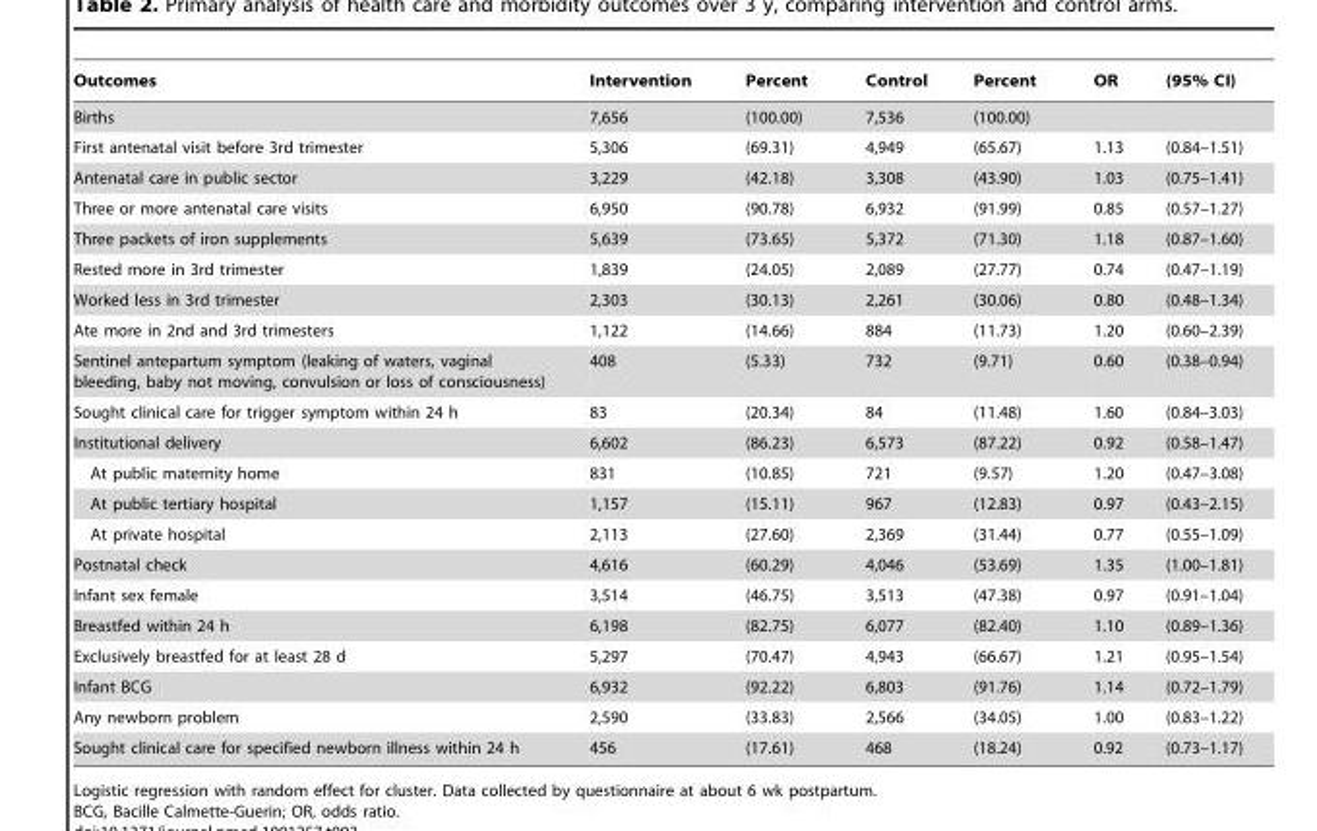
<table><thead><tr><td>Outcomes</td><td>Intervention</td><td>Percent</td><td>Control</td><td>Percent</td><td>OR</td><td>(95% CI)</td></tr></thead><tbody><tr><td>Births</td><td>7,656</td><td>(100.00)</td><td>7,536</td><td>(100.00)</td><td></td><td></td></tr><tr><td>First antenatal visit before 3rd trimester</td><td>5,306</td><td>(69.31)</td><td>4,949</td><td>(65.67)</td><td>1.13</td><td>(0.84–1.51)</td></tr><tr><td>Antenatal care in public sector</td><td>3,229</td><td>(42.18)</td><td>3,308</td><td>(43.90)</td><td>1.03</td><td>(0.75–1.41)</td></tr><tr><td>Three or more antenatal care visits</td><td>6,950</td><td>(90.78)</td><td>6,932</td><td>(91.99)</td><td>0.85</td><td>(0.57–1.27)</td></tr><tr><td>Three packets of iron supplements</td><td>5,639</td><td>(73.65)</td><td>5,372</td><td>(71.30)</td><td>1.18</td><td>(0.87–1.60)</td></tr><tr><td>Rested more in 3rd trimester</td><td>1,839</td><td>(24.05)</td><td>2,089</td><td>(27.77)</td><td>0.74</td><td>(0.47–1.19)</td></tr><tr><td>Worked less in 3rd trimester</td><td>2,303</td><td>(30.13)</td><td>2,261</td><td>(30.06)</td><td>0.80</td><td>(0.48–1.34)</td></tr><tr><td>Ate more in 2nd and 3rd trimesters</td><td>1,122</td><td>(14.66)</td><td>884</td><td>(11.73)</td><td>1.20</td><td>(0.60–2.39)</td></tr><tr><td>Sentinel antepartum symptom (leaking of waters, vaginal bleeding, baby not moving, convulsion or loss of consciousness)</td><td>408</td><td>(5.33)</td><td>732</td><td>(9.71)</td><td>0.60</td><td>(0.38–0.94)</td></tr><tr><td>Sought clinical care for trigger symptom within 24 h</td><td>83</td><td>(20.34)</td><td>84</td><td>(11.48)</td><td>1.60</td><td>(0.84–3.03)</td></tr><tr><td>Institutional delivery</td><td>6,602</td><td>(86.23)</td><td>6,573</td><td>(87.22)</td><td>0.92</td><td>(0.58–1.47)</td></tr><tr><td>At public maternity home</td><td>831</td><td>(10.85)</td><td>721</td><td>(9.57)</td><td>1.20</td><td>(0.47–3.08)</td></tr><tr><td>At public tertiary hospital</td><td>1,157</td><td>(15.11)</td><td>967</td><td>(12.83)</td><td>0.97</td><td>(0.43–2.15)</td></tr><tr><td>At private hospital</td><td>2,113</td><td>(27.60)</td><td>2,369</td><td>(31.44)</td><td>0.77</td><td>(0.55–1.09)</td></tr><tr><td>Postnatal check</td><td>4,616</td><td>(60.29)</td><td>4,046</td><td>(53.69)</td><td>1.35</td><td>(1.00–1.81)</td></tr><tr><td>Infant sex female</td><td>3,514</td><td>(46.75)</td><td>3,513</td><td>(47.38)</td><td>0.97</td><td>(0.91–1.04)</td></tr><tr><td>Breastfed within 24 h</td><td>6,198</td><td>(82.75)</td><td>6,077</td><td>(82.40)</td><td>1.10</td><td>(0.89–1.36)</td></tr><tr><td>Exclusively breastfed for at least 28 d</td><td>5,297</td><td>(70.47)</td><td>4,943</td><td>(66.67)</td><td>1.21</td><td>(0.95–1.54)</td></tr><tr><td>Infant BCG</td><td>6,932</td><td>(92.22)</td><td>6,803</td><td>(91.76)</td><td>1.14</td><td>(0.72–1.79)</td></tr><tr><td>Any newborn problem</td><td>2,590</td><td>(33.83)</td><td>2,566</td><td>(34.05)</td><td>1.00</td><td>(0.83–1.22)</td></tr><tr><td>Sought clinical care for specified newborn illness within 24 h</td><td>456</td><td>(17.61)</td><td>468</td><td>(18.24)</td><td>0.92</td><td>(0.73–1.17)</td></tr></tbody></table>